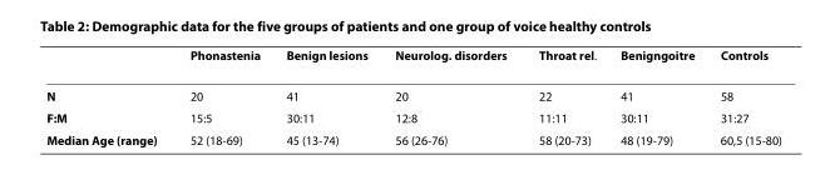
<table><thead><tr><td></td><td>Phonastenia</td><td>Benign lesions</td><td>Neurolog. disorders</td><td>Throat rel.</td><td>Benigngoitre</td><td>Controls</td></tr></thead><tbody><tr><td>N</td><td>20</td><td>41</td><td>20</td><td>22</td><td>41</td><td>58</td></tr><tr><td>F:M</td><td>15:5</td><td>30:11</td><td>12:8</td><td>11:11</td><td>30:11</td><td>31:27</td></tr><tr><td>Median Age (range)</td><td>52 (18-69)</td><td>45 (13-74)</td><td>56 (26-76)</td><td>58 (20-73)</td><td>48 (19-79)</td><td>60,5 (15-80)</td></tr></tbody></table>